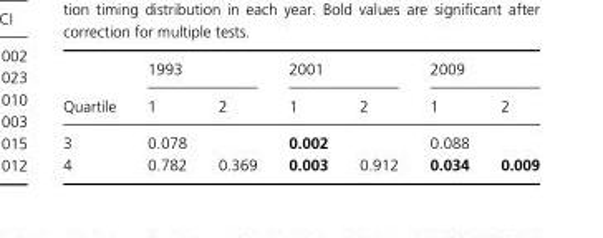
<table><thead><tr><td rowspan="2">Quartile</td><td colspan="2">1993</td><td colspan="2">2001</td><td colspan="2">2009</td></tr><tr><td>1</td><td>2</td><td>1</td><td>2</td><td>1</td><td>2</td></tr></thead><tbody><tr><td>3</td><td>0.078</td><td></td><td>0.002</td><td></td><td>0.088</td><td></td></tr><tr><td>4</td><td>0.782</td><td>0.369</td><td>0.003</td><td>0.912</td><td>0.034</td><td>0.009</td></tr></tbody></table>